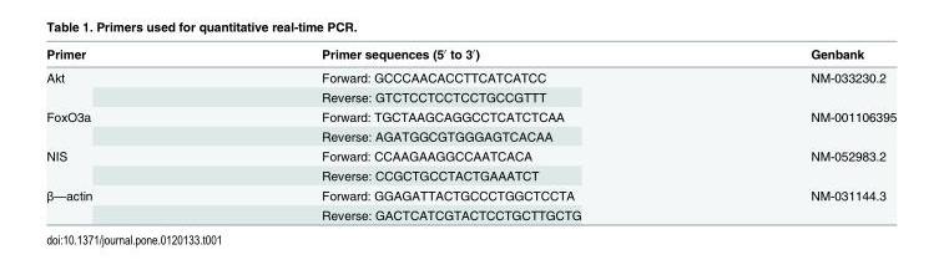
<table><thead><tr><td>Primer</td><td>Primer sequences (5′ to 3′)</td><td>Genbank</td></tr></thead><tbody><tr><td rowspan="2">Akt</td><td>Forward: GCCCAACACCTTCATCATCC</td><td rowspan="2">NM-033230.2</td></tr><tr><td>Reverse: GTCTCCTCCTCCTGCCGTTT</td></tr><tr><td rowspan="2">FoxO3a</td><td>Forward: TGCTAAGCAGGCCTCATCTCAA</td><td rowspan="2">NM-001106395</td></tr><tr><td>Reverse: AGATGGCGTGGGAGTCACAA</td></tr><tr><td rowspan="2">NIS</td><td>Forward: CCAAGAAGGCCAATCACA</td><td rowspan="2">NM-052983.2</td></tr><tr><td>Reverse: CCGCTGCCTACTGAAATCT</td></tr><tr><td rowspan="2">β—actin</td><td>Forward: GGAGATTACTGCCCTGGCTCCTA</td><td rowspan="2">NM-031144.3</td></tr><tr><td>Reverse: GACTCATCGTACTCCTGCTTGCTG</td></tr></tbody></table>